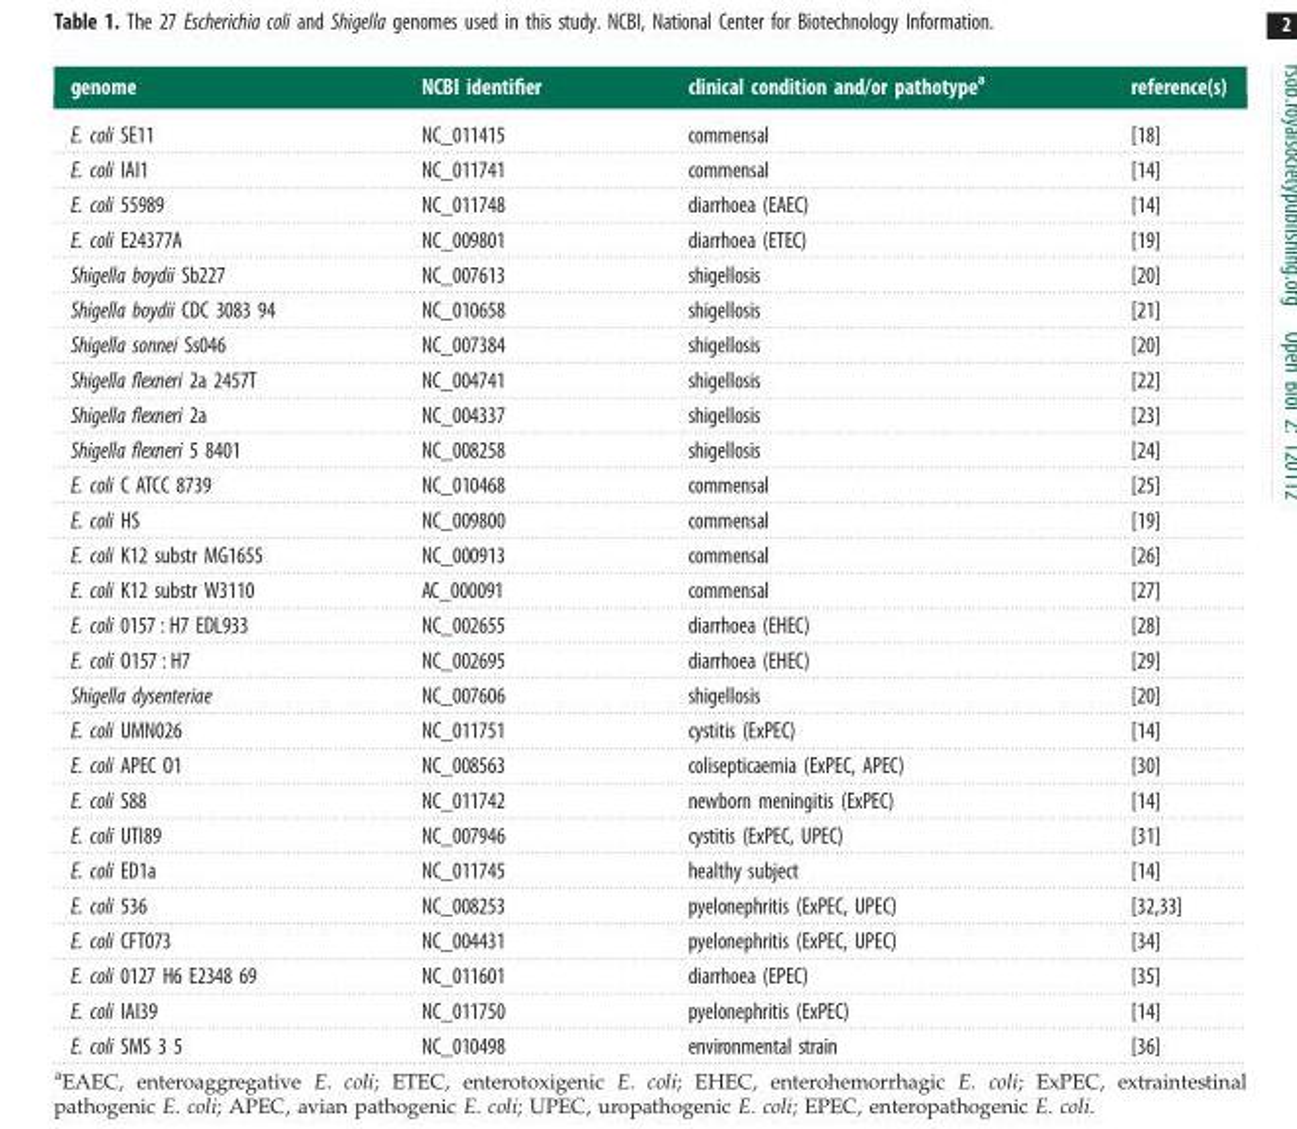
<table><thead><tr><td>genome</td><td>NCBI identifier</td><td>clinical condition and/or pathotype<sup>a</sup></td><td>reference(s)</td></tr></thead><tbody><tr><td>E. coli SE11</td><td>NC_011415</td><td>commensal</td><td>[18]</td></tr><tr><td>E. coli IAI1</td><td>NC_011741</td><td>commensal</td><td>[14]</td></tr><tr><td>E. coli 55989</td><td>NC_011748</td><td>diarrhoea (EAEC)</td><td>[14]</td></tr><tr><td>E. coli E24377A</td><td>NC_009801</td><td>diarrhoea (ETEC)</td><td>[19]</td></tr><tr><td>Shigella boydii Sb227</td><td>NC_007613</td><td>shigellosis</td><td>[20]</td></tr><tr><td>Shigella boydii CDC 3083 94</td><td>NC_010658</td><td>shigellosis</td><td>[21]</td></tr><tr><td>Shigella sonnei Ss046</td><td>NC_007384</td><td>shigellosis</td><td>[20]</td></tr><tr><td>Shigella flexneri 2a 2457T</td><td>NC_004741</td><td>shigellosis</td><td>[22]</td></tr><tr><td>Shigella flexneri 2a</td><td>NC_004337</td><td>shigellosis</td><td>[23]</td></tr><tr><td>Shigella flexneri 5 8401</td><td>NC_008258</td><td>shigellosis</td><td>[24]</td></tr><tr><td>E. coli C ATCC 8739</td><td>NC_010468</td><td>commensal</td><td>[25]</td></tr><tr><td>E. coli HS</td><td>NC_009800</td><td>commensal</td><td>[19]</td></tr><tr><td>E. coli K12 substr MG1655</td><td>NC_000913</td><td>commensal</td><td>[26]</td></tr><tr><td>E. coli K12 substr W3110</td><td>AC_000091</td><td>commensal</td><td>[27]</td></tr><tr><td>E. coli 0157 : H7 EDL933</td><td>NC_002655</td><td>diarrhoea (EHEC)</td><td>[28]</td></tr><tr><td>E. coli O157 : H7</td><td>NC_002695</td><td>diarrhoea (EHEC)</td><td>[29]</td></tr><tr><td>Shigella dysenteriae</td><td>NC_007606</td><td>shigellosis</td><td>[20]</td></tr><tr><td>E. coli UMN026</td><td>NC_011751</td><td>cystitis (ExPEC)</td><td>[14]</td></tr><tr><td>E. coli APEC O1</td><td>NC_008563</td><td>colisepticaemia (ExPEC, APEC)</td><td>[30]</td></tr><tr><td>E. coli S88</td><td>NC_011742</td><td>newborn meningitis (ExPEC)</td><td>[14]</td></tr><tr><td>E. coli UTI89</td><td>NC_007946</td><td>cystitis (ExPEC, UPEC)</td><td>[31]</td></tr><tr><td>E. coli ED1a</td><td>NC_011745</td><td>healthy subject</td><td>[14]</td></tr><tr><td>E. coli 536</td><td>NC_008253</td><td>pyelonephritis (ExPEC, UPEC)</td><td>[32,33]</td></tr><tr><td>E. coli CFT073</td><td>NC_004431</td><td>pyelonephritis (ExPEC, UPEC)</td><td>[34]</td></tr><tr><td>E. coli 0127 H6 E2348 69</td><td>NC_011601</td><td>diarrhoea (EPEC)</td><td>[35]</td></tr><tr><td>E. coli IAI39</td><td>NC_011750</td><td>pyelonephritis (ExPEC)</td><td>[14]</td></tr><tr><td>E. coli SMS 3 5</td><td>NC_010498</td><td>environmental strain</td><td>[36]</td></tr></tbody></table>